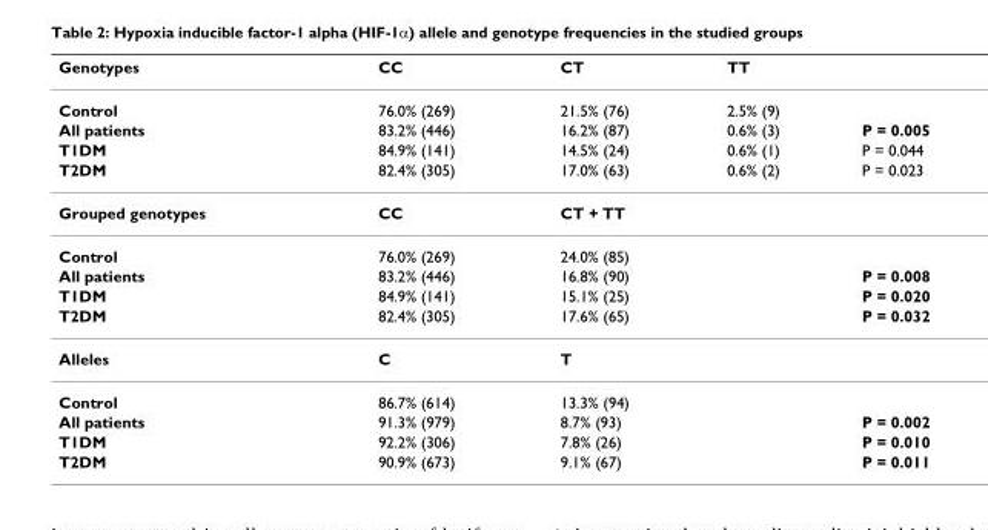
<table><thead><tr><td>Genotypes</td><td>CC</td><td>CT</td><td>TT</td><td></td></tr></thead><tbody><tr><td>Control</td><td>76.0% (269)</td><td>21.5% (76)</td><td>2.5% (9)</td><td></td></tr><tr><td>All patients</td><td>83.2% (446)</td><td>16.2% (87)</td><td>0.6% (3)</td><td>P = 0.005</td></tr><tr><td>T1DM</td><td>84.9% (141)</td><td>14.5% (24)</td><td>0.6% (1)</td><td>P = 0.044</td></tr><tr><td>T2DM</td><td>82.4% (305)</td><td>17.0% (63)</td><td>0.6% (2)</td><td>P = 0.023</td></tr><tr><td>Grouped genotypes</td><td>CC</td><td>CT + TT</td><td></td><td></td></tr><tr><td>Control</td><td>76.0% (269)</td><td>24.0% (85)</td><td></td><td></td></tr><tr><td>All patients</td><td>83.2% (446)</td><td>16.8% (90)</td><td></td><td>P = 0.008</td></tr><tr><td>T1DM</td><td>84.9% (141)</td><td>15.1% (25)</td><td></td><td>P = 0.020</td></tr><tr><td>T2DM</td><td>82.4% (305)</td><td>17.6% (65)</td><td></td><td>P = 0.032</td></tr><tr><td>Alleles</td><td>C</td><td>T</td><td></td><td></td></tr><tr><td>Control</td><td>86.7% (614)</td><td>13.3% (94)</td><td></td><td></td></tr><tr><td>All patients</td><td>91.3% (979)</td><td>8.7% (93)</td><td></td><td>P = 0.002</td></tr><tr><td>T1DM</td><td>92.2% (306)</td><td>7.8% (26)</td><td></td><td>P = 0.010</td></tr><tr><td>T2DM</td><td>90.9% (673)</td><td>9.1% (67)</td><td></td><td>P = 0.011</td></tr></tbody></table>